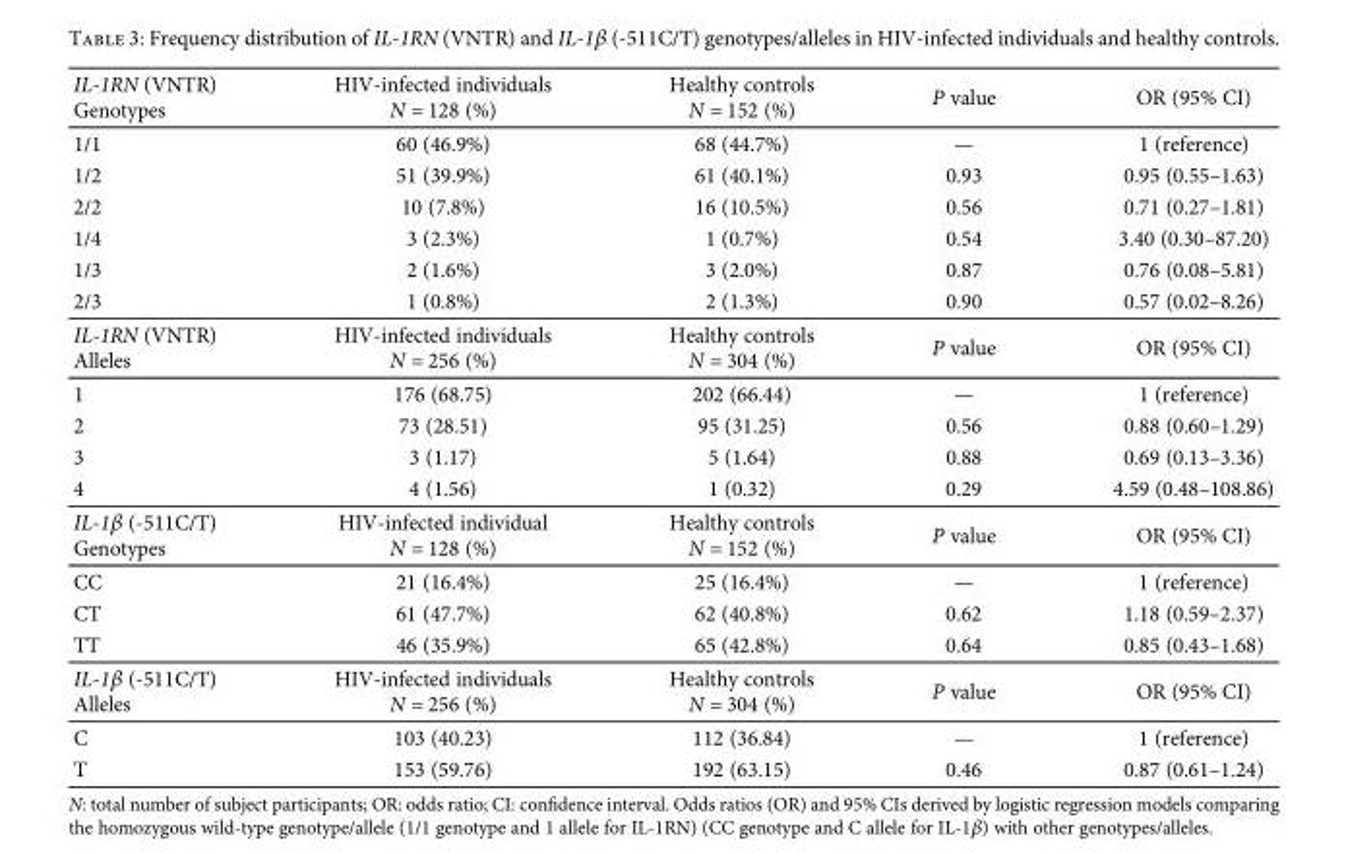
<table><tbody><tr><td>IL-1RN (VNTR) Genotypes</td><td>HIV-infected individuals N = 128 (%)</td><td>Healthy controls N = 152 (%)</td><td>P value</td><td>OR (95% CI)</td></tr><tr><td>1/1</td><td>60 (46.9%)</td><td>68 (44.7%)</td><td>—</td><td>1 (reference)</td></tr><tr><td>1/2</td><td>51 (39.9%)</td><td>61 (40.1%)</td><td>0.93</td><td>0.95 (0.55–1.63)</td></tr><tr><td>2/2</td><td>10 (7.8%)</td><td>16 (10.5%)</td><td>0.56</td><td>0.71 (0.27–1.81)</td></tr><tr><td>1/4</td><td>3 (2.3%)</td><td>1 (0.7%)</td><td>0.54</td><td>3.40 (0.30–87.20)</td></tr><tr><td>1/3</td><td>2 (1.6%)</td><td>3 (2.0%)</td><td>0.87</td><td>0.76 (0.08–5.81)</td></tr><tr><td>2/3</td><td>1 (0.8%)</td><td>2 (1.3%)</td><td>0.90</td><td>0.57 (0.02–8.26)</td></tr><tr><td>IL-1RN (VNTR) Alleles</td><td>HIV-infected individuals N = 256 (%)</td><td>Healthy controls N = 304 (%)</td><td>P value</td><td>OR (95% CI)</td></tr><tr><td>1</td><td>176 (68.75)</td><td>202 (66.44)</td><td>—</td><td>1 (reference)</td></tr><tr><td>2</td><td>73 (28.51)</td><td>95 (31.25)</td><td>0.56</td><td>0.88 (0.60–1.29)</td></tr><tr><td>3</td><td>3 (1.17)</td><td>5 (1.64)</td><td>0.88</td><td>0.69 (0.13–3.36)</td></tr><tr><td>4</td><td>4 (1.56)</td><td>1 (0.32)</td><td>0.29</td><td>4.59 (0.48–108.86)</td></tr><tr><td>IL-1β (-511C/T) Genotypes</td><td>HIV-infected individual N = 128 (%)</td><td>Healthy controls N = 152 (%)</td><td>P value</td><td>OR (95% CI)</td></tr><tr><td>CC</td><td>21 (16.4%)</td><td>25 (16.4%)</td><td>—</td><td>1 (reference)</td></tr><tr><td>CT</td><td>61 (47.7%)</td><td>62 (40.8%)</td><td>0.62</td><td>1.18 (0.59–2.37)</td></tr><tr><td>TT</td><td>46 (35.9%)</td><td>65 (42.8%)</td><td>0.64</td><td>0.85 (0.43–1.68)</td></tr><tr><td>IL-1β (-511C/T) Alleles</td><td>HIV-infected individuals N = 256 (%)</td><td>Healthy controls N = 304 (%)</td><td>P value</td><td>OR (95% CI)</td></tr><tr><td>C</td><td>103 (40.23)</td><td>112 (36.84)</td><td>—</td><td>1 (reference)</td></tr><tr><td>T</td><td>153 (59.76)</td><td>192 (63.15)</td><td>0.46</td><td>0.87 (0.61–1.24)</td></tr></tbody></table>